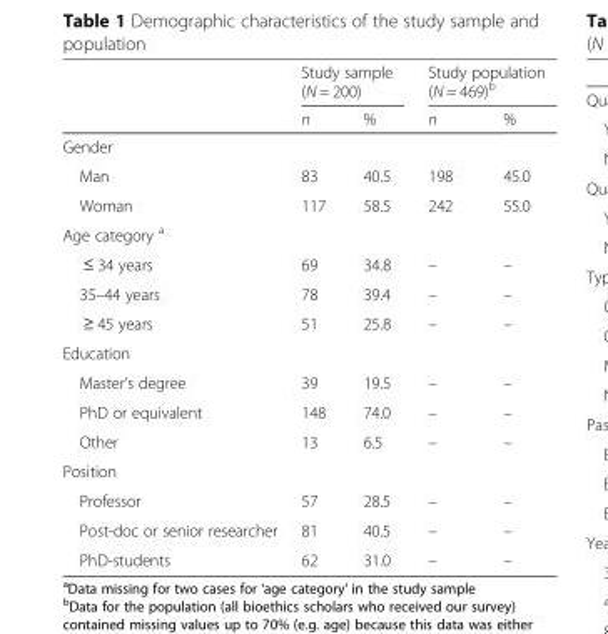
<table><thead><tr><td rowspan="2"></td><td colspan="2">Study sample (N = 200)</td><td colspan="2">Study population (N = 469)<sup>b</sup></td></tr><tr><td>n</td><td>%</td><td>n</td><td>%</td></tr></thead><tbody><tr><td colspan="5">Gender</td></tr><tr><td>Man</td><td>83</td><td>40.5</td><td>198</td><td>45.0</td></tr><tr><td>Woman</td><td>117</td><td>58.5</td><td>242</td><td>55.0</td></tr><tr><td colspan="5">Age category <sup>a</sup></td></tr><tr><td>≤ 34 years</td><td>69</td><td>34.8</td><td>–</td><td>–</td></tr><tr><td>35–44 years</td><td>78</td><td>39.4</td><td>–</td><td>–</td></tr><tr><td>≥ 45 years</td><td>51</td><td>25.8</td><td>–</td><td>–</td></tr><tr><td colspan="5">Education</td></tr><tr><td>Master’s degree</td><td>39</td><td>19.5</td><td>–</td><td>–</td></tr><tr><td>PhD or equivalent</td><td>148</td><td>74.0</td><td>–</td><td>–</td></tr><tr><td>Other</td><td>13</td><td>6.5</td><td>–</td><td>–</td></tr><tr><td colspan="5">Position</td></tr><tr><td>Professor</td><td>57</td><td>28.5</td><td>–</td><td>–</td></tr><tr><td>Post-doc or senior researcher</td><td>81</td><td>40.5</td><td>–</td><td>–</td></tr><tr><td>PhD-students</td><td>62</td><td>31.0</td><td>–</td><td>–</td></tr></tbody></table>